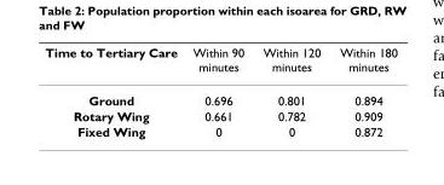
<table><thead><tr><td>Time to Tertiary Care</td><td>Within 90 minutes</td><td>Within 120 minutes</td><td>Within 180 minutes</td></tr></thead><tbody><tr><td>Ground</td><td>0.696</td><td>0.801</td><td>0.894</td></tr><tr><td>Rotary Wing</td><td>0.661</td><td>0.782</td><td>0.909</td></tr><tr><td>Fixed Wing</td><td>0</td><td>0</td><td>0.872</td></tr></tbody></table>